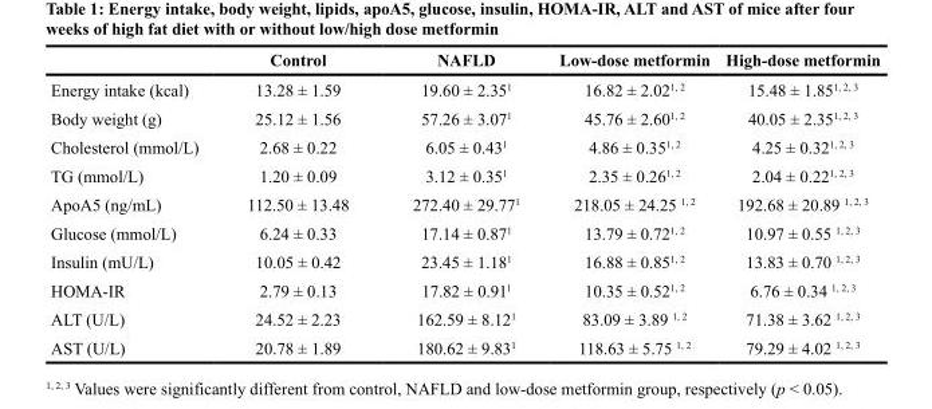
<table><thead><tr><td></td><td>Control</td><td>NAFLD</td><td>Low-dose metformin</td><td>High-dose metformin</td></tr></thead><tbody><tr><td>Energy intake (kcal)</td><td>13.28 ± 1.59</td><td>19.60 ± 2.35<sup>1</sup></td><td>16.82 ± 2.02<sup>1, 2</sup></td><td>15.48 ± 1.85<sup>1, 2, 3</sup></td></tr><tr><td>Body weight (g)</td><td>25.12 ± 1.56</td><td>57.26 ± 3.07<sup>1</sup></td><td>45.76 ± 2.60<sup>1, 2</sup></td><td>40.05 ± 2.35<sup>1, 2, 3</sup></td></tr><tr><td>Cholesterol (mmol/L)</td><td>2.68 ± 0.22</td><td>6.05 ± 0.43<sup>1</sup></td><td>4.86 ± 0.35<sup>1, 2</sup></td><td>4.25 ± 0.32<sup>1, 2, 3</sup></td></tr><tr><td>TG (mmol/L)</td><td>1.20 ± 0.09</td><td>3.12 ± 0.35<sup>1</sup></td><td>2.35 ± 0.26<sup>1, 2</sup></td><td>2.04 ± 0.22<sup>1, 2, 3</sup></td></tr><tr><td>ApoA5 (ng/mL)</td><td>112.50 ± 13.48</td><td>272.40 ± 29.77<sup>1</sup></td><td>218.05 ± 24.25 <sup>1, 2</sup></td><td>192.68 ± 20.89 <sup>1, 2, 3</sup></td></tr><tr><td>Glucose (mmol/L)</td><td>6.24 ± 0.33</td><td>17.14 ± 0.87<sup>1</sup></td><td>13.79 ± 0.72<sup>1, 2</sup></td><td>10.97 ± 0.55 <sup>1, 2, 3</sup></td></tr><tr><td>Insulin (mU/L)</td><td>10.05 ± 0.42</td><td>23.45 ± 1.18<sup>1</sup></td><td>16.88 ± 0.85<sup>1, 2</sup></td><td>13.83 ± 0.70 <sup>1, 2, 3</sup></td></tr><tr><td>HOMA-IR</td><td>2.79 ± 0.13</td><td>17.82 ± 0.91<sup>1</sup></td><td>10.35 ± 0.52<sup>1, 2</sup></td><td>6.76 ± 0.34 <sup>1, 2, 3</sup></td></tr><tr><td>ALT (U/L)</td><td>24.52 ± 2.23</td><td>162.59 ± 8.12<sup>1</sup></td><td>83.09 ± 3.89 <sup>1, 2</sup></td><td>71.38 ± 3.62 <sup>1, 2, 3</sup></td></tr><tr><td>AST (U/L)</td><td>20.78 ± 1.89</td><td>180.62 ± 9.83<sup>1</sup></td><td>118.63 ± 5.75 <sup>1, 2</sup></td><td>79.29 ± 4.02 <sup>1, 2, 3</sup></td></tr></tbody></table>